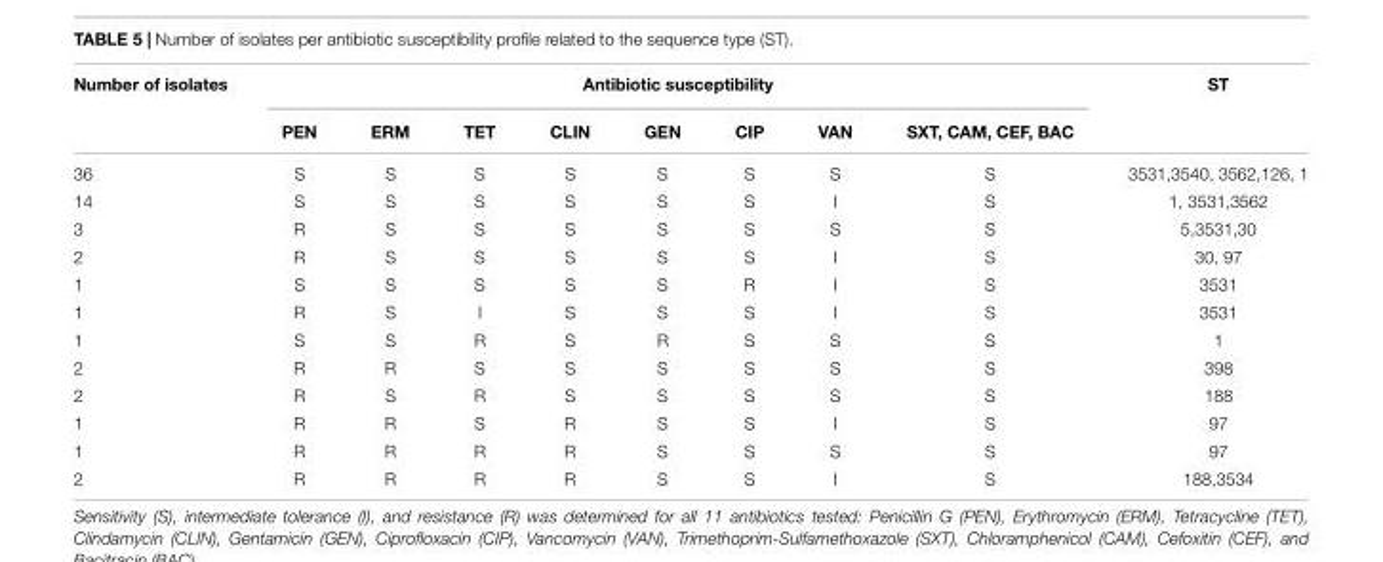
<table><thead><tr><td rowspan="2">Number of isolates</td><td colspan="8">Antibiotic susceptibility</td><td rowspan="2">ST</td></tr><tr><td>PEN</td><td>ERM</td><td>TET</td><td>CLIN</td><td>GEN</td><td>CIP</td><td>VAN</td><td>SXT, CAM, CEF, BAC</td></tr></thead><tbody><tr><td>36</td><td>S</td><td>S</td><td>S</td><td>S</td><td>S</td><td>S</td><td>S</td><td>S</td><td>3531,3540, 3562,126, 1</td></tr><tr><td>14</td><td>S</td><td>S</td><td>S</td><td>S</td><td>S</td><td>S</td><td>I</td><td>S</td><td>1, 3531,3562</td></tr><tr><td>3</td><td>R</td><td>S</td><td>S</td><td>S</td><td>S</td><td>S</td><td>S</td><td>S</td><td>5,3531,30</td></tr><tr><td>2</td><td>R</td><td>S</td><td>S</td><td>S</td><td>S</td><td>S</td><td>I</td><td>S</td><td>30, 97</td></tr><tr><td>1</td><td>S</td><td>S</td><td>S</td><td>S</td><td>S</td><td>R</td><td>I</td><td>S</td><td>3531</td></tr><tr><td>1</td><td>R</td><td>S</td><td>I</td><td>S</td><td>S</td><td>S</td><td>I</td><td>S</td><td>3531</td></tr><tr><td>1</td><td>S</td><td>S</td><td>R</td><td>S</td><td>R</td><td>S</td><td>S</td><td>S</td><td>1</td></tr><tr><td>2</td><td>R</td><td>R</td><td>S</td><td>S</td><td>S</td><td>S</td><td>S</td><td>S</td><td>398</td></tr><tr><td>2</td><td>R</td><td>S</td><td>R</td><td>S</td><td>S</td><td>S</td><td>S</td><td>S</td><td>188</td></tr><tr><td>1</td><td>R</td><td>R</td><td>S</td><td>R</td><td>S</td><td>S</td><td>I</td><td>S</td><td>97</td></tr><tr><td>1</td><td>R</td><td>R</td><td>R</td><td>R</td><td>S</td><td>S</td><td>S</td><td>S</td><td>97</td></tr><tr><td>2</td><td>R</td><td>R</td><td>R</td><td>R</td><td>S</td><td>S</td><td>I</td><td>S</td><td>188,3534</td></tr></tbody></table>